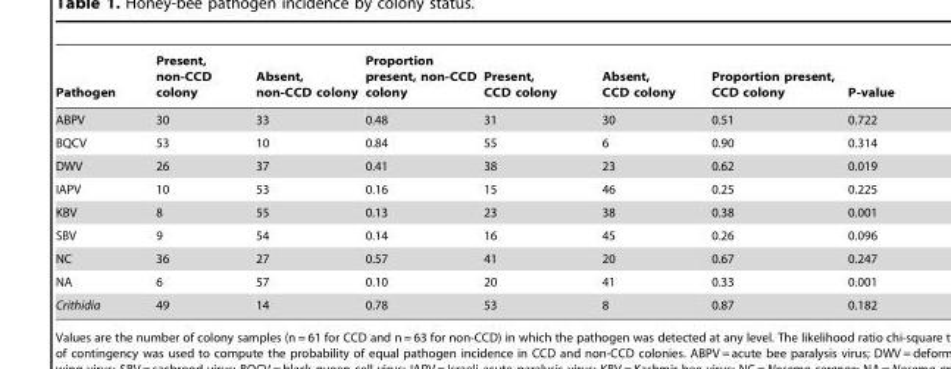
<table><thead><tr><td>Pathogen</td><td>Present, non-CCD colony</td><td>Absent, non-CCD colony</td><td>Proportion present, non-CCD colony</td><td>Present, CCD colony</td><td>Absent, CCD colony</td><td>Proportion present, CCD colony</td><td>P-value</td></tr></thead><tbody><tr><td>ABPV</td><td>30</td><td>33</td><td>0.48</td><td>31</td><td>30</td><td>0.51</td><td>0.722</td></tr><tr><td>BQCV</td><td>53</td><td>10</td><td>0.84</td><td>55</td><td>6</td><td>0.90</td><td>0.314</td></tr><tr><td>DWV</td><td>26</td><td>37</td><td>0.41</td><td>38</td><td>23</td><td>0.62</td><td>0.019</td></tr><tr><td>IAPV</td><td>10</td><td>53</td><td>0.16</td><td>15</td><td>46</td><td>0.25</td><td>0.225</td></tr><tr><td>KBV</td><td>8</td><td>55</td><td>0.13</td><td>23</td><td>38</td><td>0.38</td><td>0.001</td></tr><tr><td>SBV</td><td>9</td><td>54</td><td>0.14</td><td>16</td><td>45</td><td>0.26</td><td>0.096</td></tr><tr><td>NC</td><td>36</td><td>27</td><td>0.57</td><td>41</td><td>20</td><td>0.67</td><td>0.247</td></tr><tr><td>NA</td><td>6</td><td>57</td><td>0.10</td><td>20</td><td>41</td><td>0.33</td><td>0.001</td></tr><tr><td>Crithidia</td><td>49</td><td>14</td><td>0.78</td><td>53</td><td>8</td><td>0.87</td><td>0.182</td></tr></tbody></table>